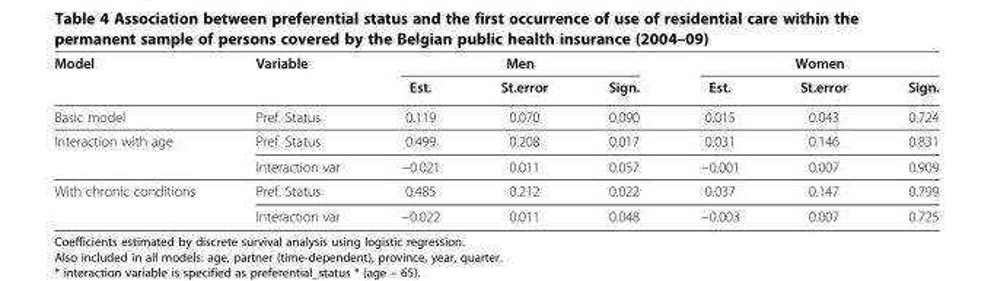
<table><thead><tr><td rowspan="2">Model</td><td rowspan="2">Variable</td><td colspan="3">Men</td><td colspan="3">Women</td></tr><tr><td>Est.</td><td>St.error</td><td>Sign.</td><td>Est.</td><td>St.error</td><td>Sign.</td></tr></thead><tbody><tr><td>Basic model</td><td>Pref. Status</td><td>0.119</td><td>0.070</td><td>0.090</td><td>0.015</td><td>0.043</td><td>0.724</td></tr><tr><td rowspan="2">Interaction with age</td><td>Pref. Status</td><td>0.499</td><td>0.208</td><td>0.017</td><td>0.031</td><td>0.146</td><td>0.831</td></tr><tr><td>Interaction var</td><td>−0.021</td><td>0.011</td><td>0.057</td><td>−0.001</td><td>0.007</td><td>0.909</td></tr><tr><td rowspan="2">With chronic conditions</td><td>Pref. Status</td><td>0.485</td><td>0.212</td><td>0.022</td><td>0.037</td><td>0.147</td><td>0.799</td></tr><tr><td>Interaction var</td><td>−0.022</td><td>0.011</td><td>0.048</td><td>−0.003</td><td>0.007</td><td>0.725</td></tr></tbody></table>